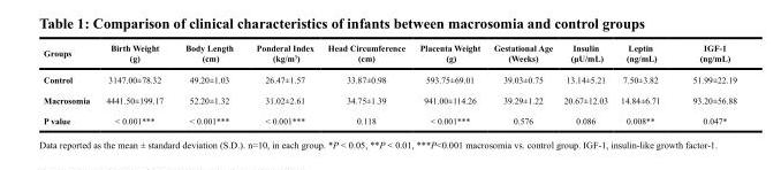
<table><thead><tr><td>Groups</td><td>Birth Weight (g)</td><td>Body Length (cm)</td><td>Ponderal Index (kg/m<sup>3</sup>)</td><td>Head Circumference (cm)</td><td>Placenta Weight (g)</td><td>Gestational Age (Weeks)</td><td>Insulin (μU/mL)</td><td>Leptin (ng/mL)</td><td>IGF-1 (ng/mL)</td></tr></thead><tbody><tr><td>Control</td><td>3147.00±78.32</td><td>49.20±1.03</td><td>26.47±1.57</td><td>33.87±0.98</td><td>593.75±69.01</td><td>39.03±0.75</td><td>13.14±5.21</td><td>7.50±3.82</td><td>51.99±22.19</td></tr><tr><td>Macrosomia</td><td>4441.50±199.17</td><td>52.20±1.32</td><td>31.02±2.61</td><td>34.75±1.39</td><td>941.00±114.26</td><td>39.29±1.22</td><td>20.67±12.03</td><td>14.84±6.71</td><td>93.20±56.88</td></tr><tr><td>P value</td><td>&lt; 0.001***</td><td>&lt; 0.001***</td><td>&lt; 0.001***</td><td>0.118</td><td>&lt; 0.001***</td><td>0.576</td><td>0.086</td><td>0.008**</td><td>0.047*</td></tr></tbody></table>